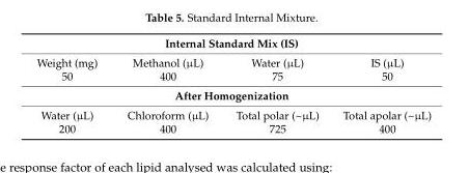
<table><thead><tr><td colspan="4">Internal Standard Mix (IS)</td></tr><tr><td>Weight (mg)</td><td>Methanol (µL)</td><td>Water (µL)</td><td>IS (µL)</td></tr></thead><tbody><tr><td>50</td><td>400</td><td>75</td><td>50</td></tr><tr><td colspan="4">After Homogenization</td></tr><tr><td>Water (µL)</td><td>Chloroform (µL)</td><td>Total polar (~µL)</td><td>Total apolar (~µL)</td></tr><tr><td>200</td><td>400</td><td>725</td><td>400</td></tr></tbody></table>